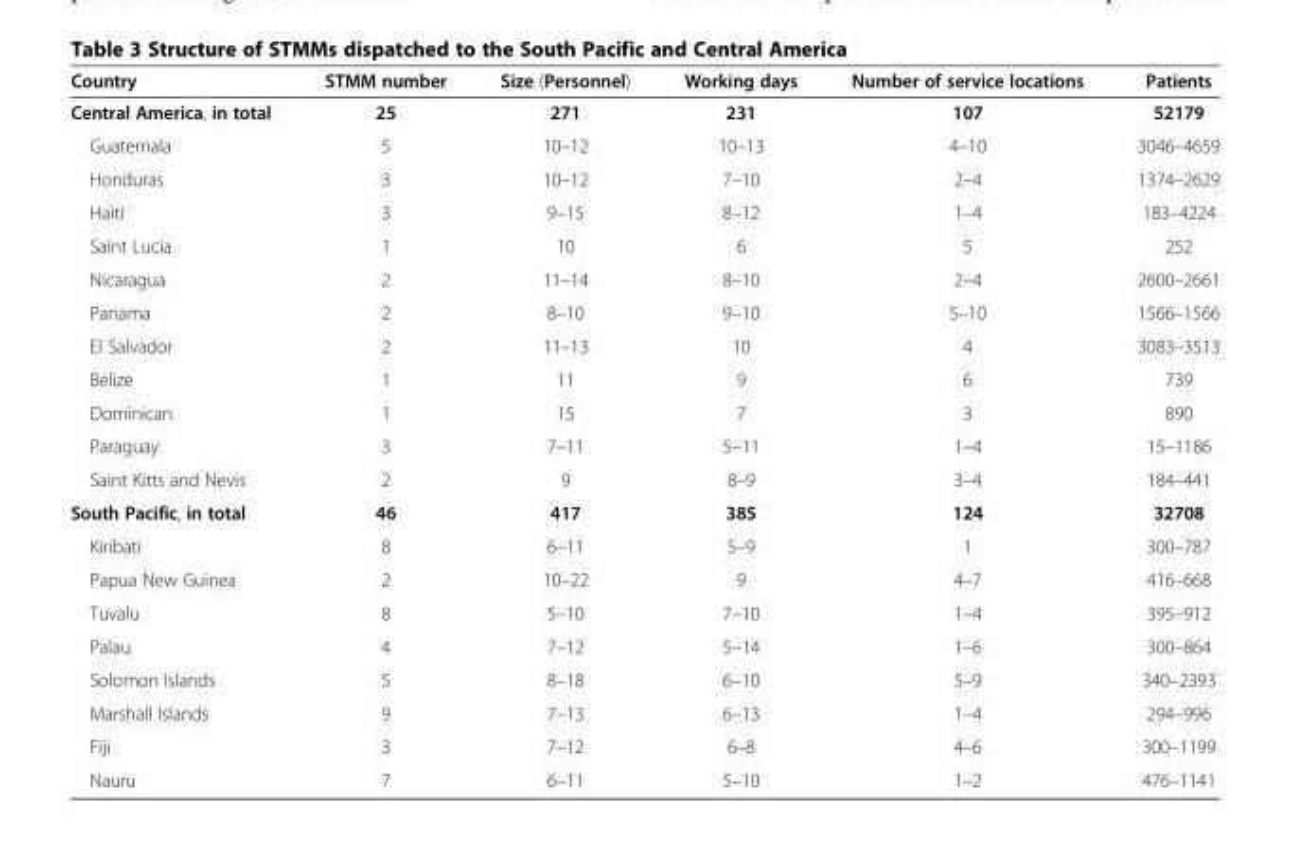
<table><thead><tr><td>Country</td><td>STMM number</td><td>Size (Personnel)</td><td>Working days</td><td>Number of service locations</td><td>Patients</td></tr></thead><tbody><tr><td>Central America, in total</td><td>25</td><td>271</td><td>231</td><td>107</td><td>52179</td></tr><tr><td>Guatemala</td><td>5</td><td>10–12</td><td>10–13</td><td>4–10</td><td>3046–4659</td></tr><tr><td>Honduras</td><td>3</td><td>10–12</td><td>7–10</td><td>2–4</td><td>1374–2629</td></tr><tr><td>Haiti</td><td>3</td><td>9–15</td><td>8–12</td><td>1–4</td><td>183–4224</td></tr><tr><td>Saint Lucia</td><td>1</td><td>10</td><td>6</td><td>5</td><td>252</td></tr><tr><td>Nicaragua</td><td>2</td><td>11–14</td><td>8–10</td><td>2–4</td><td>2600–2661</td></tr><tr><td>Panama</td><td>2</td><td>8–10</td><td>9–10</td><td>5–10</td><td>1566–1566</td></tr><tr><td>El Salvador</td><td>2</td><td>11–13</td><td>10</td><td>4</td><td>3083–3513</td></tr><tr><td>Belize</td><td>1</td><td>11</td><td>9</td><td>6</td><td>739</td></tr><tr><td>Dominican</td><td>1</td><td>15</td><td>7</td><td>3</td><td>890</td></tr><tr><td>Paraguay</td><td>3</td><td>7–11</td><td>5–11</td><td>1–4</td><td>15–1186</td></tr><tr><td>Saint Kitts and Nevis</td><td>2</td><td>9</td><td>8–9</td><td>3–4</td><td>184–441</td></tr><tr><td>South Pacific, in total</td><td>46</td><td>417</td><td>385</td><td>124</td><td>32708</td></tr><tr><td>Kiribati</td><td>8</td><td>6–11</td><td>5–9</td><td>1</td><td>300–787</td></tr><tr><td>Papua New Guinea</td><td>2</td><td>10–22</td><td>9</td><td>4–7</td><td>416–668</td></tr><tr><td>Tuvalu</td><td>8</td><td>5–10</td><td>7–10</td><td>1–4</td><td>395–912</td></tr><tr><td>Palau</td><td>4</td><td>7–12</td><td>5–14</td><td>1–6</td><td>300–864</td></tr><tr><td>Solomon Islands</td><td>5</td><td>8–18</td><td>6–10</td><td>5–9</td><td>340–2393</td></tr><tr><td>Marshall Islands</td><td>9</td><td>7–13</td><td>6–13</td><td>1–4</td><td>294–996</td></tr><tr><td>Fiji</td><td>3</td><td>7–12</td><td>6–8</td><td>4–6</td><td>300–1199</td></tr><tr><td>Nauru</td><td>7</td><td>6–11</td><td>5–10</td><td>1–2</td><td>476–1141</td></tr></tbody></table>